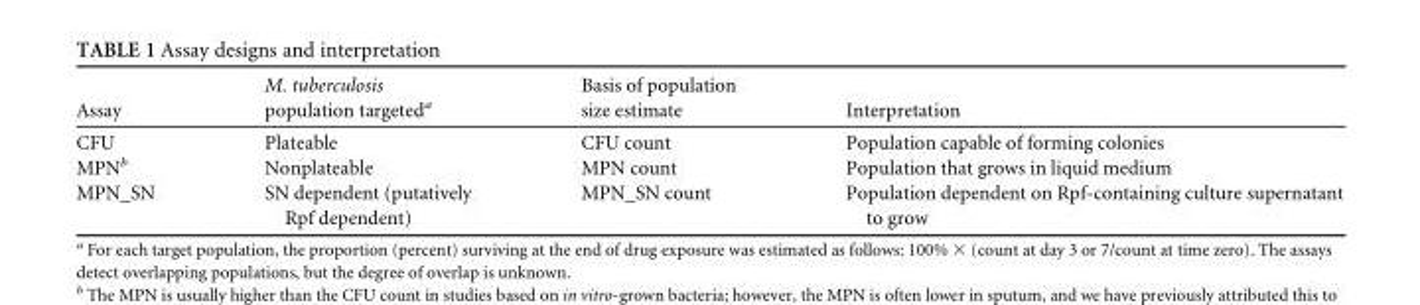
<table><thead><tr><td>Assay</td><td>M. tuberculosis population targeted<sup>a</sup></td><td>Basis of population size estimate</td><td>Interpretation</td></tr></thead><tbody><tr><td>CFU</td><td>Plateable</td><td>CFU count</td><td>Population capable of forming colonies</td></tr><tr><td>MPN<sup>b</sup></td><td>Nonplateable</td><td>MPN count</td><td>Population that grows in liquid medium</td></tr><tr><td>MPN_SN</td><td>SN dependent (putatively Rpf dependent)</td><td>MPN_SN count</td><td>Population dependent on Rpf-containing culture supernatant to grow</td></tr></tbody></table>